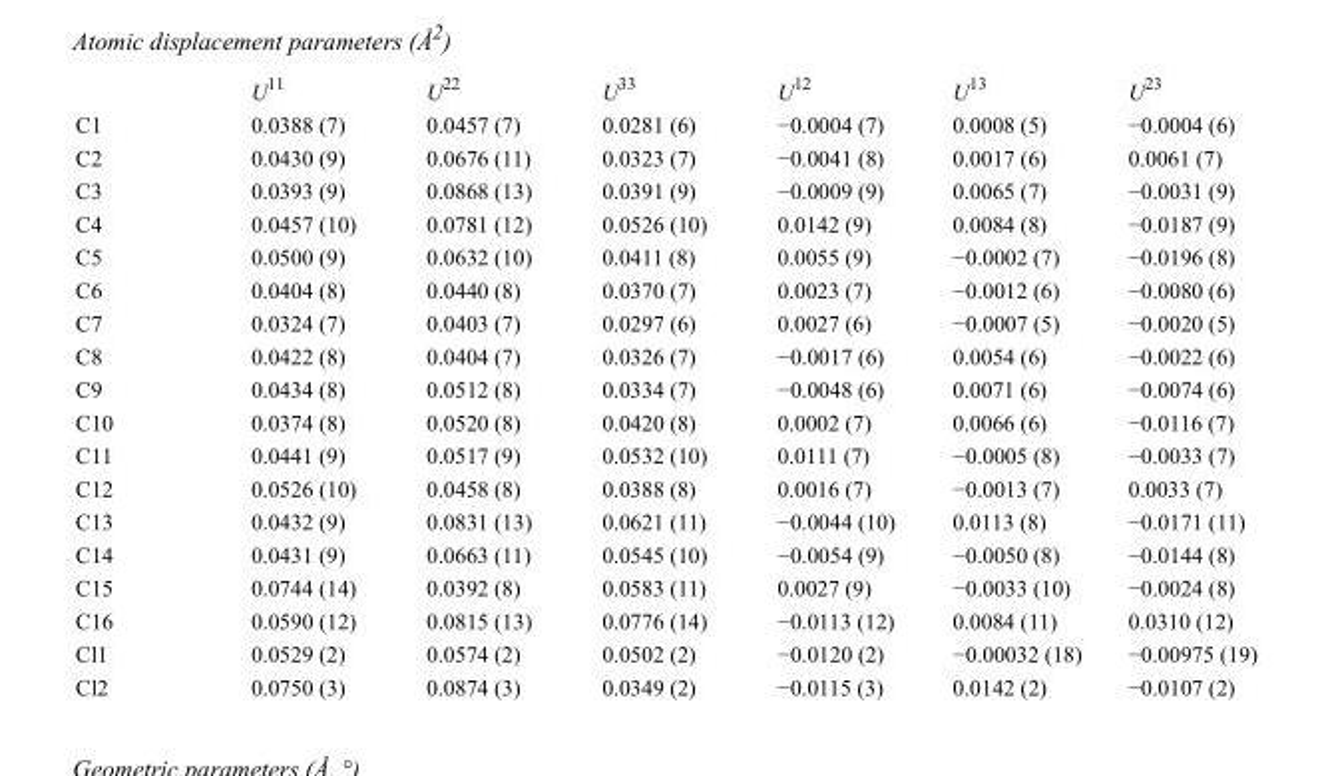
<table><thead><tr><td></td><td>U<sup>11</sup></td><td>U<sup>22</sup></td><td>U<sup>33</sup></td><td>U<sup>12</sup></td><td>U<sup>13</sup></td><td>U<sup>23</sup></td></tr></thead><tbody><tr><td>C1</td><td>0.0388 (7)</td><td>0.0457 (7)</td><td>0.0281 (6)</td><td>−0.0004 (7)</td><td>0.0008 (5)</td><td>−0.0004 (6)</td></tr><tr><td>C2</td><td>0.0430 (9)</td><td>0.0676 (11)</td><td>0.0323 (7)</td><td>−0.0041 (8)</td><td>0.0017 (6)</td><td>0.0061 (7)</td></tr><tr><td>C3</td><td>0.0393 (9)</td><td>0.0868 (13)</td><td>0.0391 (9)</td><td>−0.0009 (9)</td><td>0.0065 (7)</td><td>−0.0031 (9)</td></tr><tr><td>C4</td><td>0.0457 (10)</td><td>0.0781 (12)</td><td>0.0526 (10)</td><td>0.0142 (9)</td><td>0.0084 (8)</td><td>−0.0187 (9)</td></tr><tr><td>C5</td><td>0.0500 (9)</td><td>0.0632 (10)</td><td>0.0411 (8)</td><td>0.0055 (9)</td><td>−0.0002 (7)</td><td>−0.0196 (8)</td></tr><tr><td>C6</td><td>0.0404 (8)</td><td>0.0440 (8)</td><td>0.0370 (7)</td><td>0.0023 (7)</td><td>−0.0012 (6)</td><td>−0.0080 (6)</td></tr><tr><td>C7</td><td>0.0324 (7)</td><td>0.0403 (7)</td><td>0.0297 (6)</td><td>0.0027 (6)</td><td>−0.0007 (5)</td><td>−0.0020 (5)</td></tr><tr><td>C8</td><td>0.0422 (8)</td><td>0.0404 (7)</td><td>0.0326 (7)</td><td>−0.0017 (6)</td><td>0.0054 (6)</td><td>−0.0022 (6)</td></tr><tr><td>C9</td><td>0.0434 (8)</td><td>0.0512 (8)</td><td>0.0334 (7)</td><td>−0.0048 (6)</td><td>0.0071 (6)</td><td>−0.0074 (6)</td></tr><tr><td>C10</td><td>0.0374 (8)</td><td>0.0520 (8)</td><td>0.0420 (8)</td><td>0.0002 (7)</td><td>0.0066 (6)</td><td>−0.0116 (7)</td></tr><tr><td>C11</td><td>0.0441 (9)</td><td>0.0517 (9)</td><td>0.0532 (10)</td><td>0.0111 (7)</td><td>−0.0005 (8)</td><td>−0.0033 (7)</td></tr><tr><td>C12</td><td>0.0526 (10)</td><td>0.0458 (8)</td><td>0.0388 (8)</td><td>0.0016 (7)</td><td>−0.0013 (7)</td><td>0.0033 (7)</td></tr><tr><td>C13</td><td>0.0432 (9)</td><td>0.0831 (13)</td><td>0.0621 (11)</td><td>−0.0044 (10)</td><td>0.0113 (8)</td><td>−0.0171 (11)</td></tr><tr><td>C14</td><td>0.0431 (9)</td><td>0.0663 (11)</td><td>0.0545 (10)</td><td>−0.0054 (9)</td><td>−0.0050 (8)</td><td>−0.0144 (8)</td></tr><tr><td>C15</td><td>0.0744 (14)</td><td>0.0392 (8)</td><td>0.0583 (11)</td><td>0.0027 (9)</td><td>−0.0033 (10)</td><td>−0.0024 (8)</td></tr><tr><td>C16</td><td>0.0590 (12)</td><td>0.0815 (13)</td><td>0.0776 (14)</td><td>−0.0113 (12)</td><td>0.0084 (11)</td><td>0.0310 (12)</td></tr><tr><td>Cl1</td><td>0.0529 (2)</td><td>0.0574 (2)</td><td>0.0502 (2)</td><td>−0.0120 (2)</td><td>−0.00032 (18)</td><td>−0.00975 (19)</td></tr><tr><td>Cl2</td><td>0.0750 (3)</td><td>0.0874 (3)</td><td>0.0349 (2)</td><td>−0.0115 (3)</td><td>0.0142 (2)</td><td>−0.0107 (2)</td></tr></tbody></table>